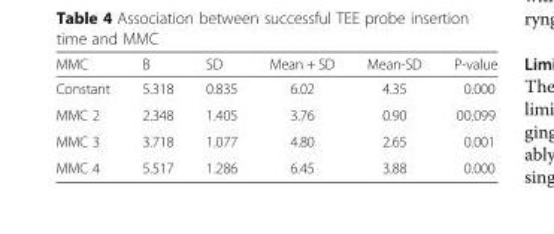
<table><thead><tr><td>MMC</td><td>B</td><td>SD</td><td>Mean + SD</td><td>Mean-SD</td><td>P-value</td></tr></thead><tbody><tr><td>Constant</td><td>5.318</td><td>0.835</td><td>6.02</td><td>4.35</td><td>0.000</td></tr><tr><td>MMC 2</td><td>2.348</td><td>1.405</td><td>3.76</td><td>0.90</td><td>00.099</td></tr><tr><td>MMC 3</td><td>3.718</td><td>1.077</td><td>4.80</td><td>2.65</td><td>0.001</td></tr><tr><td>MMC 4</td><td>5.517</td><td>1.286</td><td>6.45</td><td>3.88</td><td>0.000</td></tr></tbody></table>